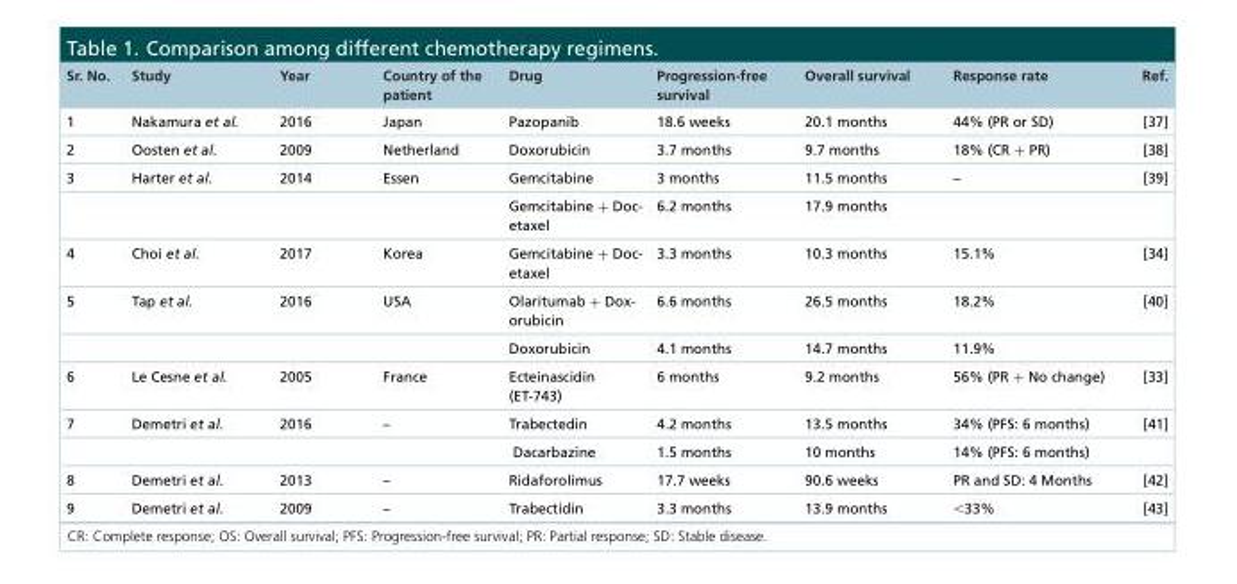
<table><thead><tr><td>Sr. No.</td><td>Study</td><td>Year</td><td>Country of the patient</td><td>Drug</td><td>Progression-free survival</td><td>Overall survival</td><td>Response rate</td><td>Ref.</td></tr></thead><tbody><tr><td>1</td><td>Nakamura et al.</td><td>2016</td><td>Japan</td><td>Pazopanib</td><td>18.6 weeks</td><td>20.1 months</td><td>44% (PR or SD)</td><td>[37]</td></tr><tr><td>2</td><td>Oosten et al.</td><td>2009</td><td>Netherland</td><td>Doxorubicin</td><td>3.7 months</td><td>9.7 months</td><td>18% (CR + PR)</td><td>[38]</td></tr><tr><td rowspan="2">3</td><td>Harter et al.</td><td>2014</td><td>Essen</td><td>Gemcitabine</td><td>3 months</td><td>11.5 months</td><td>–</td><td>[39]</td></tr><tr><td></td><td></td><td></td><td>Gemcitabine + Doc- etaxel</td><td>6.2 months</td><td>17.9 months</td><td></td><td></td></tr><tr><td>4</td><td>Choi et al.</td><td>2017</td><td>Korea</td><td>Gemcitabine + Doc- etaxel</td><td>3.3 months</td><td>10.3 months</td><td>15.1%</td><td>[34]</td></tr><tr><td rowspan="2">5</td><td>Tap et al.</td><td>2016</td><td>USA</td><td>Olaritumab + Dox- orubicin</td><td>6.6 months</td><td>26.5 months</td><td>18.2%</td><td>[40]</td></tr><tr><td></td><td></td><td></td><td>Doxorubicin</td><td>4.1 months</td><td>14.7 months</td><td>11.9%</td><td></td></tr><tr><td>6</td><td>Le Cesne et al.</td><td>2005</td><td>France</td><td>Ecteinascidin (ET-743)</td><td>6 months</td><td>9.2 months</td><td>56% (PR + No change)</td><td>[33]</td></tr><tr><td rowspan="2">7</td><td>Demetri et al.</td><td>2016</td><td>–</td><td>Trabectedin</td><td>4.2 months</td><td>13.5 months</td><td>34% (PFS: 6 months)</td><td>[41]</td></tr><tr><td></td><td></td><td></td><td>Dacarbazine</td><td>1.5 months</td><td>10 months</td><td>14% (PFS: 6 months)</td><td></td></tr><tr><td>8</td><td>Demetri et al.</td><td>2013</td><td>–</td><td>Ridaforolimus</td><td>17.7 weeks</td><td>90.6 weeks</td><td>PR and SD: 4 Months</td><td>[42]</td></tr><tr><td>9</td><td>Demetri et al.</td><td>2009</td><td>–</td><td>Trabectidin</td><td>3.3 months</td><td>13.9 months</td><td>&lt;33%</td><td>[43]</td></tr></tbody></table>